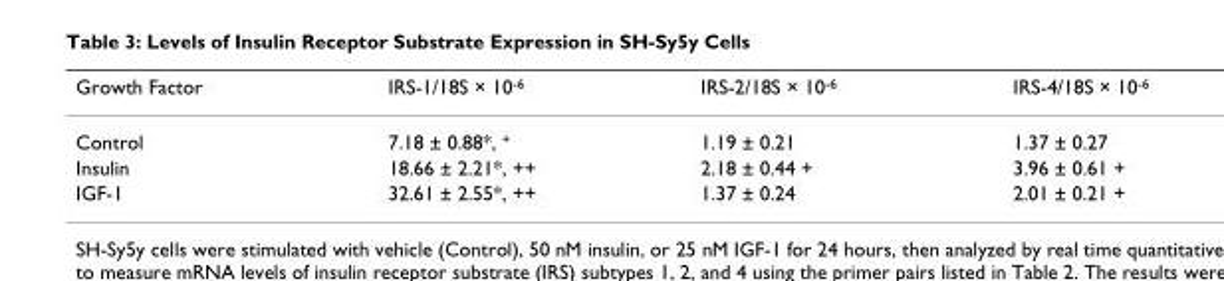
<table><thead><tr><td>Growth Factor</td><td>IRS-1/18S × 10<sup>-6</sup></td><td>IRS-2/18S × 10<sup>-6</sup></td><td>IRS-4/18S × 10<sup>-6</sup></td></tr></thead><tbody><tr><td>Control</td><td>7.18 ± 0.88*, <sup>+</sup></td><td>1.19 ± 0.21</td><td>1.37 ± 0.27</td></tr><tr><td>Insulin</td><td>18.66 ± 2.21*, ++</td><td>2.18 ± 0.44 +</td><td>3.96 ± 0.61 +</td></tr><tr><td>IGF-1</td><td>32.61 ± 2.55*, ++</td><td>1.37 ± 0.24</td><td>2.01 ± 0.21 +</td></tr></tbody></table>